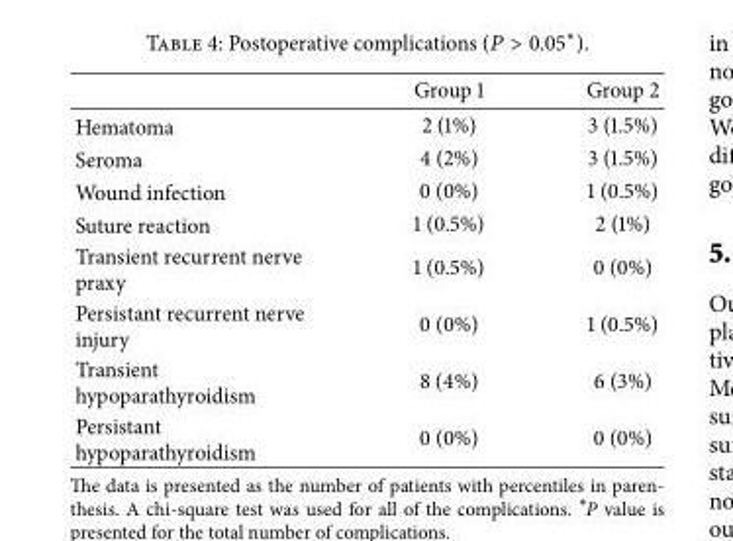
<table><thead><tr><td></td><td>Group 1</td><td>Group 2</td></tr></thead><tbody><tr><td>Hematoma</td><td>2 (1%)</td><td>3 (1.5%)</td></tr><tr><td>Seroma</td><td>4 (2%)</td><td>3 (1.5%)</td></tr><tr><td>Wound infection</td><td>0 (0%)</td><td>1 (0.5%)</td></tr><tr><td>Suture reaction</td><td>1 (0.5%)</td><td>2 (1%)</td></tr><tr><td>Transient recurrent nerve praxy</td><td>1 (0.5%)</td><td>0 (0%)</td></tr><tr><td>Persistant recurrent nerve injury</td><td>0 (0%)</td><td>1 (0.5%)</td></tr><tr><td>Transient hypoparathyroidism</td><td>8 (4%)</td><td>6 (3%)</td></tr><tr><td>Persistant hypoparathyroidism</td><td>0 (0%)</td><td>0 (0%)</td></tr></tbody></table>